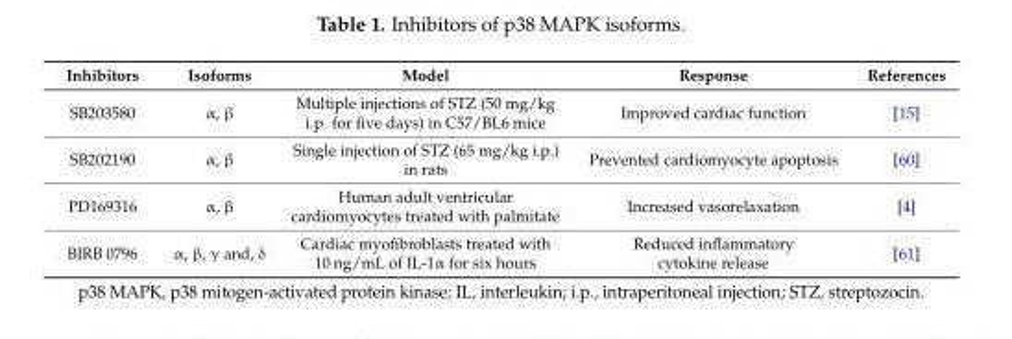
<table><thead><tr><td>Inhibitors</td><td>Isoforms</td><td>Model</td><td>Response</td><td>References</td></tr></thead><tbody><tr><td>SB203580</td><td>α, β</td><td>Multiple injections of STZ (50 mg/kg i.p. for five days) in C57/BL6 mice</td><td>Improved cardiac function</td><td>[15]</td></tr><tr><td>SB202190</td><td>α, β</td><td>Single injection of STZ (65 mg/kg i.p.) in rats</td><td>Prevented cardiomyocyte apoptosis</td><td>[60]</td></tr><tr><td>PD169316</td><td>α, β</td><td>Human adult ventricular cardiomyocytes treated with palmitate</td><td>Increased vasorelaxation</td><td>[4]</td></tr><tr><td>BIRB 0796</td><td>α, β, γ and, δ</td><td>Cardiac myofibroblasts treated with 10 ng/mL of IL-1α for six hours</td><td>Reduced inflammatory cytokine release</td><td>[61]</td></tr></tbody></table>